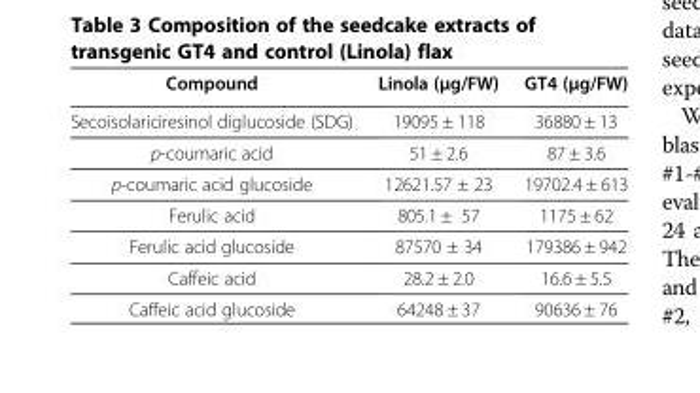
<table><thead><tr><td>Compound</td><td>Linola (μg/FW)</td><td>GT4 (μg/FW)</td></tr></thead><tbody><tr><td>Secoisolariciresinol diglucoside (SDG)</td><td>19095 ± 118</td><td>36880 ± 13</td></tr><tr><td>p-coumaric acid</td><td>51 ± 2.6</td><td>87 ± 3.6</td></tr><tr><td>p-coumaric acid glucoside</td><td>12621.57 ± 23</td><td>19702.4 ± 613</td></tr><tr><td>Ferulic acid</td><td>805.1 ± 57</td><td>1175 ± 62</td></tr><tr><td>Ferulic acid glucoside</td><td>87570 ± 34</td><td>179386 ± 942</td></tr><tr><td>Caffeic acid</td><td>28.2 ± 2.0</td><td>16.6 ± 5.5</td></tr><tr><td>Caffeic acid glucoside</td><td>64248 ± 37</td><td>90636 ± 76</td></tr></tbody></table>